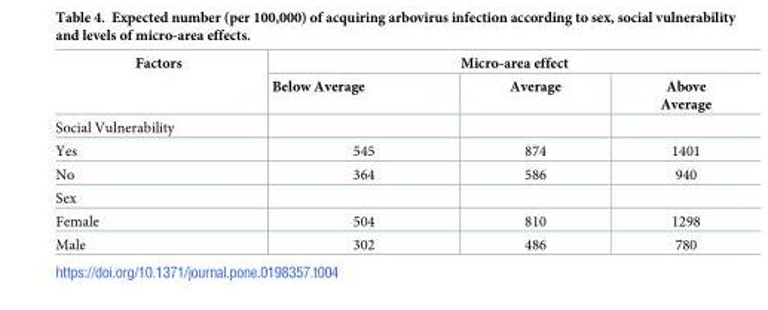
<table><thead><tr><td rowspan="2">Factors</td><td colspan="3">Micro-area effect</td></tr><tr><td>Below Average</td><td>Average</td><td>Above Average</td></tr></thead><tbody><tr><td colspan="4">Social Vulnerability</td></tr><tr><td>Yes</td><td>545</td><td>874</td><td>1401</td></tr><tr><td>No</td><td>364</td><td>586</td><td>940</td></tr><tr><td colspan="4">Sex</td></tr><tr><td>Female</td><td>504</td><td>810</td><td>1298</td></tr><tr><td>Male</td><td>302</td><td>486</td><td>780</td></tr></tbody></table>